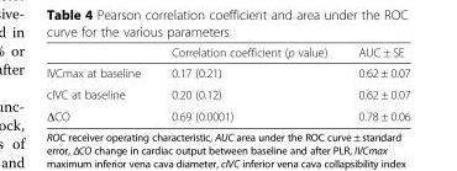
<table><thead><tr><td></td><td>Correlation coefficient (p value)</td><td>AUC ± SE</td></tr></thead><tbody><tr><td>IVCmax at baseline</td><td>0.17 (0.21)</td><td>0.62 ± 0.07</td></tr><tr><td>cIVC at baseline</td><td>0.20 (0.12)</td><td>0.62 ± 0.07</td></tr><tr><td>ΔCO</td><td>0.69 (0.0001)</td><td>0.78 ± 0.06</td></tr></tbody></table>